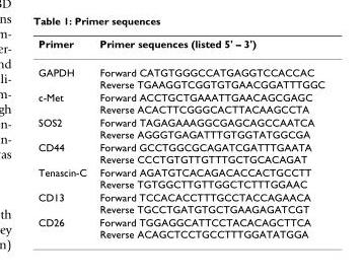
<table><thead><tr><td>Primer</td><td>Primer sequences (listed 5&#x27; – 3&#x27;)</td></tr></thead><tbody><tr><td>GAPDH</td><td>Forward CATGTGGGCCATGAGGTCCACCAC Reverse TGAAGGTCGGTGTGAACGGATTTGGC</td></tr><tr><td>c-Met</td><td>Forward ACCTGCTGAAATTGAACAGCGAGC Reverse ACACTTCGGGCACTTACAAGCCTA</td></tr><tr><td>SOS2</td><td>Forward TAGAGAAAGGCGAGCAGCCAATCA Reverse AGGGTGAGATTTGTGGTATGGCGA</td></tr><tr><td>CD44</td><td>Forward GCCTGGCGCAGATCGATTTGAATA Reverse CCCTGTGTTGTTTGCTGCACAGAT</td></tr><tr><td>Tenascin-C</td><td>Forward AGATGTCACAGACACCACTGCCTT Reverse TGTGGCTTGTTGGCTCTTTGGAAC</td></tr><tr><td>CD13</td><td>Forward TCCACACCTTTGCCTACCAGAACA Reverse TGCCTGATGTGCTGAAGAGATCGT</td></tr><tr><td>CD26</td><td>Forward TGGAGGCATTCCTACACAGCTTCA Reverse ACAGCTCCTGCCTTTGGATATGGA</td></tr></tbody></table>